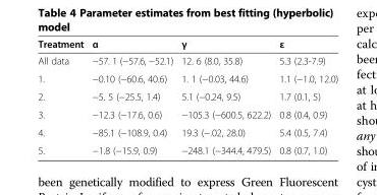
<table><thead><tr><td>Treatment</td><td>α</td><td>γ</td><td>ε</td></tr></thead><tbody><tr><td>All data</td><td>−57. 1 (−57.6, −52.1)</td><td>12. 6 (8.0, 35.8)</td><td>5.3 (2.3-7.9)</td></tr><tr><td>1.</td><td>−0.10 (−60.6, 40.6)</td><td>1. 1 (−0.03, 44.6)</td><td>1.1 (−1.0, 12.0)</td></tr><tr><td>2.</td><td>−5. 5 (−25.5, 1.4)</td><td>5.1 (−0.24, 9.5)</td><td>1.7 (0.1, 5)</td></tr><tr><td>3.</td><td>−12.3 (−17.6, 0.6)</td><td>−105.3 (−600.5, 622.2)</td><td>0.8 (0.4, 0.9)</td></tr><tr><td>4.</td><td>−85.1 (−108.9, 0.4)</td><td>19.3 (−.02, 28.0)</td><td>5.4 (0.5, 7.4)</td></tr><tr><td>5.</td><td>−1.8 (−15.9, 0.9)</td><td>−248.1 (−344.4, 479.5)</td><td>0.8 (0.7, 1.0)</td></tr></tbody></table>